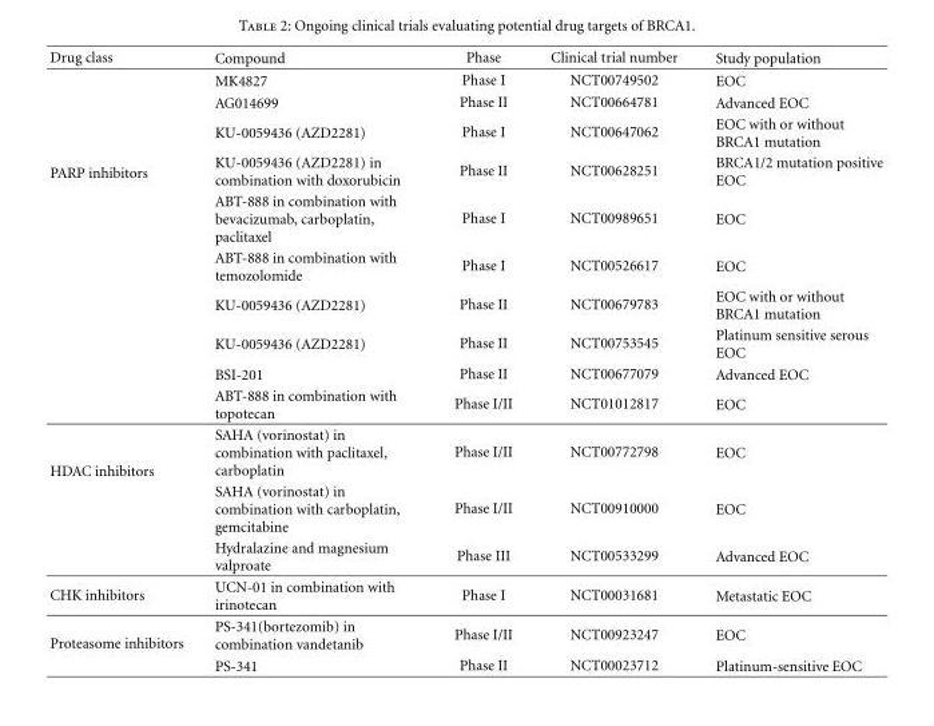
<table><thead><tr><td>Drug class</td><td>Compound</td><td>Phase</td><td>Clinical trial number</td><td>Study population</td></tr></thead><tbody><tr><td rowspan="10">PARP inhibitors</td><td>MK4827</td><td>Phase I</td><td>NCT00749502</td><td>EOC</td></tr><tr><td>AG014699</td><td>Phase II</td><td>NCT00664781</td><td>Advanced EOC</td></tr><tr><td>KU-0059436 (AZD2281)</td><td>Phase I</td><td>NCT00647062</td><td>EOC with or without BRCA1 mutation</td></tr><tr><td>KU-0059436 (AZD2281) in combination with doxorubicin</td><td>Phase II</td><td>NCT00628251</td><td>BRCA1/2 mutation positive EOC</td></tr><tr><td>ABT-888 in combination with bevacizumab, carboplatin, paclitaxel</td><td>Phase I</td><td>NCT00989651</td><td>EOC</td></tr><tr><td>ABT-888 in combination with temozolomide</td><td>Phase I</td><td>NCT00526617</td><td>EOC</td></tr><tr><td>KU-0059436 (AZD2281)</td><td>Phase II</td><td>NCT00679783</td><td>EOC with or without BRCA1 mutation</td></tr><tr><td>KU-0059436 (AZD2281)</td><td>Phase II</td><td>NCT00753545</td><td>Platinum sensitive serous EOC</td></tr><tr><td>BSI-201</td><td>Phase II</td><td>NCT00677079</td><td>Advanced EOC</td></tr><tr><td>ABT-888 in combination with topotecan</td><td>Phase I/II</td><td>NCT01012817</td><td>EOC</td></tr><tr><td rowspan="3">HDAC inhibitors</td><td>SAHA (vorinostat) in combination with paclitaxel, carboplatin</td><td>Phase I/II</td><td>NCT00772798</td><td>EOC</td></tr><tr><td>SAHA (vorinostat) in combination with carboplatin, gemcitabine</td><td>Phase I/II</td><td>NCT00910000</td><td>EOC</td></tr><tr><td>Hydralazine and magnesium valproate</td><td>Phase III</td><td>NCT00533299</td><td>Advanced EOC</td></tr><tr><td>CHK inhibitors</td><td>UCN-01 in combination with irinotecan</td><td>Phase I</td><td>NCT00031681</td><td>Metastatic EOC</td></tr><tr><td rowspan="2">Proteasome inhibitors</td><td>PS-341(bortezomib) in combination vandetanib</td><td>Phase I/II</td><td>NCT00923247</td><td>EOC</td></tr><tr><td>PS-341</td><td>Phase II</td><td>NCT00023712</td><td>Platinum-sensitive EOC</td></tr></tbody></table>